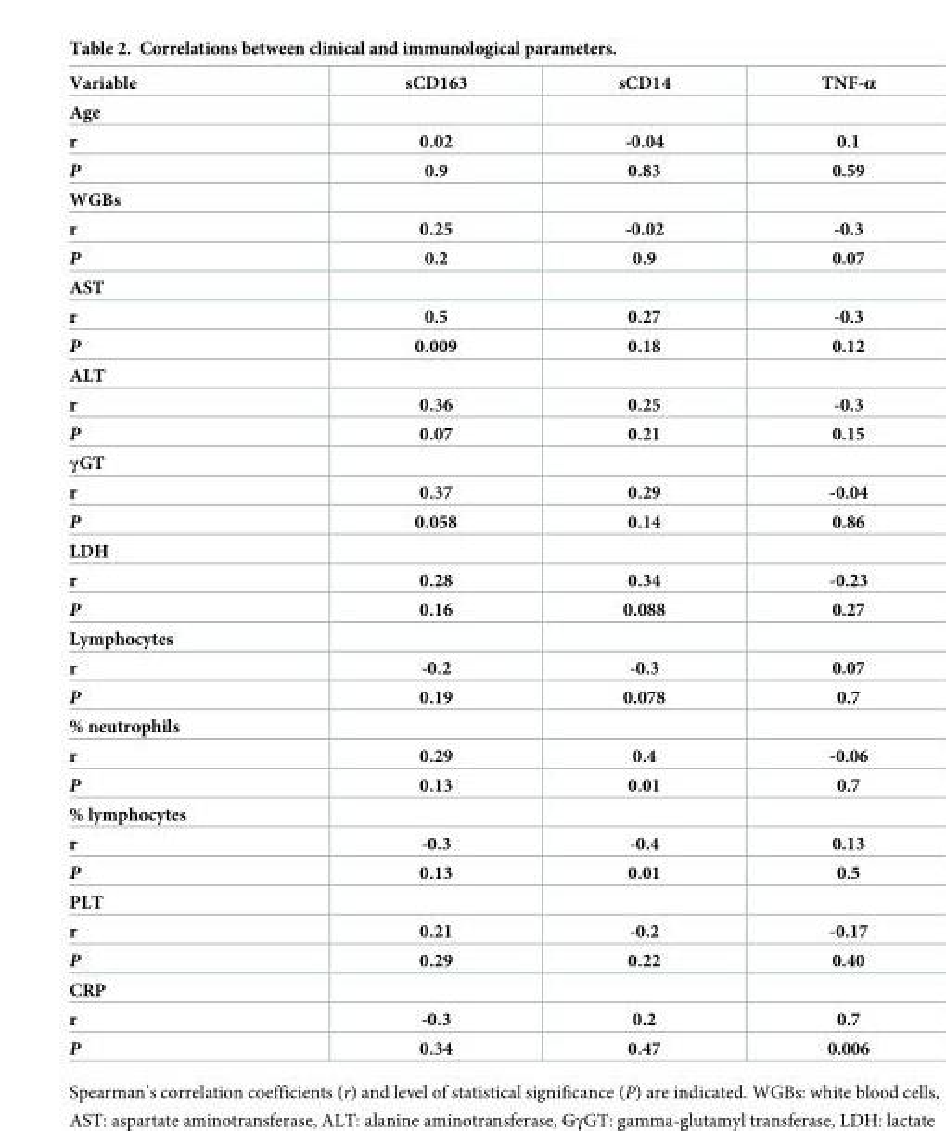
<table><thead><tr><td>Variable</td><td>sCD163</td><td>sCD14</td><td>TNF-α</td></tr></thead><tbody><tr><td colspan="4">Age</td></tr><tr><td>r</td><td>0.02</td><td>-0.04</td><td>0.1</td></tr><tr><td>P</td><td>0.9</td><td>0.83</td><td>0.59</td></tr><tr><td colspan="4">WGBs</td></tr><tr><td>r</td><td>0.25</td><td>-0.02</td><td>-0.3</td></tr><tr><td>P</td><td>0.2</td><td>0.9</td><td>0.07</td></tr><tr><td colspan="4">AST</td></tr><tr><td>r</td><td>0.5</td><td>0.27</td><td>-0.3</td></tr><tr><td>P</td><td>0.009</td><td>0.18</td><td>0.12</td></tr><tr><td colspan="4">ALT</td></tr><tr><td>r</td><td>0.36</td><td>0.25</td><td>-0.3</td></tr><tr><td>P</td><td>0.07</td><td>0.21</td><td>0.15</td></tr><tr><td colspan="4">γGT</td></tr><tr><td>r</td><td>0.37</td><td>0.29</td><td>-0.04</td></tr><tr><td>P</td><td>0.058</td><td>0.14</td><td>0.86</td></tr><tr><td colspan="4">LDH</td></tr><tr><td>r</td><td>0.28</td><td>0.34</td><td>-0.23</td></tr><tr><td>P</td><td>0.16</td><td>0.088</td><td>0.27</td></tr><tr><td colspan="4">Lymphocytes</td></tr><tr><td>r</td><td>-0.2</td><td>-0.3</td><td>0.07</td></tr><tr><td>P</td><td>0.19</td><td>0.078</td><td>0.7</td></tr><tr><td colspan="4">% neutrophils</td></tr><tr><td>r</td><td>0.29</td><td>0.4</td><td>-0.06</td></tr><tr><td>P</td><td>0.13</td><td>0.01</td><td>0.7</td></tr><tr><td colspan="4">% lymphocytes</td></tr><tr><td>r</td><td>-0.3</td><td>-0.4</td><td>0.13</td></tr><tr><td>P</td><td>0.13</td><td>0.01</td><td>0.5</td></tr><tr><td colspan="4">PLT</td></tr><tr><td>r</td><td>0.21</td><td>-0.2</td><td>-0.17</td></tr><tr><td>P</td><td>0.29</td><td>0.22</td><td>0.40</td></tr><tr><td colspan="4">CRP</td></tr><tr><td>r</td><td>-0.3</td><td>0.2</td><td>0.7</td></tr><tr><td>P</td><td>0.34</td><td>0.47</td><td>0.006</td></tr></tbody></table>